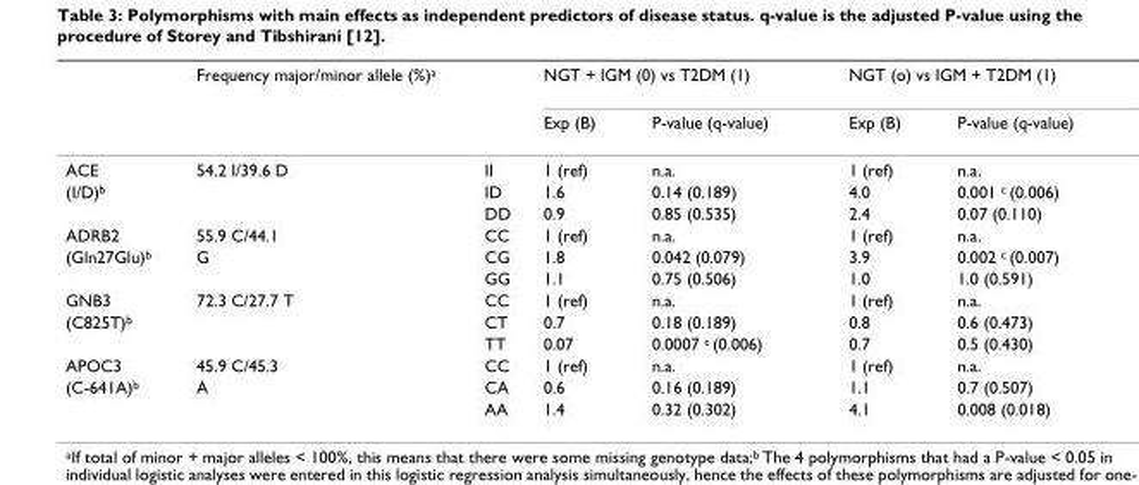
<table><thead><tr><td rowspan="2"></td><td rowspan="2">Frequency major/minor allele (%)<sup>a</sup></td><td rowspan="2"></td><td colspan="2">NGT + IGM (0) vs T2DM (1)</td><td colspan="2">NGT (o) vs IGM + T2DM (1)</td></tr><tr><td>Exp (B)</td><td>P-value (q-value)</td><td>Exp (B)</td><td>P-value (q-value)</td></tr></thead><tbody><tr><td>ACE</td><td>54.2 I/39.6 D</td><td>II</td><td>1 (ref)</td><td>n.a.</td><td>1 (ref)</td><td>n.a.</td></tr><tr><td rowspan="2">(I/D)<sup>b</sup></td><td></td><td>ID</td><td>1.6</td><td>0.14 (0.189)</td><td>4.0</td><td>0.001 <sup>c</sup> (0.006)</td></tr><tr><td></td><td>DD</td><td>0.9</td><td>0.85 (0.535)</td><td>2.4</td><td>0.07 (0.110)</td></tr><tr><td>ADRB2</td><td>55.9 C/44.1</td><td>CC</td><td>1 (ref)</td><td>n.a.</td><td>1 (ref)</td><td>n.a.</td></tr><tr><td rowspan="2">(Gln27Glu)<sup>b</sup></td><td>G</td><td>CG</td><td>1.8</td><td>0.042 (0.079)</td><td>3.9</td><td>0.002 <sup>c</sup> (0.007)</td></tr><tr><td></td><td>GG</td><td>1.1</td><td>0.75 (0.506)</td><td>1.0</td><td>1.0 (0.591)</td></tr><tr><td>GNB3</td><td>72.3 C/27.7 T</td><td>CC</td><td>1 (ref)</td><td>n.a.</td><td>1 (ref)</td><td>n.a.</td></tr><tr><td rowspan="2">(C825T)<sup>b</sup></td><td></td><td>CT</td><td>0.7</td><td>0.18 (0.189)</td><td>0.8</td><td>0.6 (0.473)</td></tr><tr><td></td><td>TT</td><td>0.07</td><td>0.0007 <sup>c</sup> (0.006)</td><td>0.7</td><td>0.5 (0.430)</td></tr><tr><td>APOC3</td><td>45.9 C/45.3</td><td>CC</td><td>1 (ref)</td><td>n.a.</td><td>1 (ref)</td><td>n.a.</td></tr><tr><td rowspan="2">(C-641A)<sup>b</sup></td><td>A</td><td>CA</td><td>0.6</td><td>0.16 (0.189)</td><td>1.1</td><td>0.7 (0.507)</td></tr><tr><td></td><td>AA</td><td>1.4</td><td>0.32 (0.302)</td><td>4.1</td><td>0.008 (0.018)</td></tr></tbody></table>